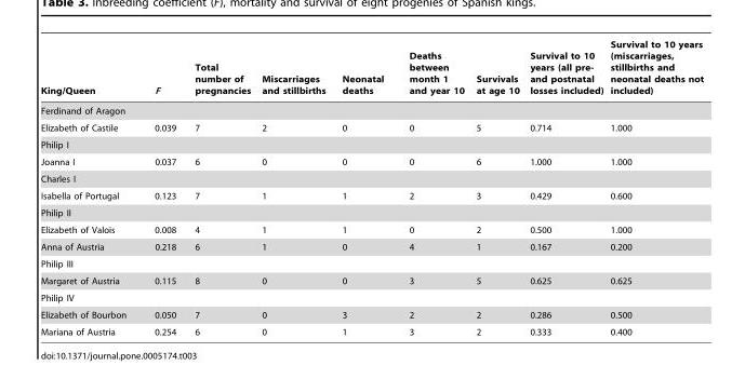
<table><thead><tr><td>King/Queen</td><td>F</td><td>Total number of pregnancies</td><td>Miscarriages and stillbirths</td><td>Neonatal deaths</td><td>Deaths between month 1 and year 10</td><td>Survivals at age 10</td><td>Survival to 10 years (all pre- and postnatal losses included)</td><td>Survival to 10 years (miscarriages, stillbirths and neonatal deaths not included)</td></tr></thead><tbody><tr><td colspan="9">Ferdinand of Aragon</td></tr><tr><td>Elizabeth of Castile</td><td>0.039</td><td>7</td><td>2</td><td>0</td><td>0</td><td>5</td><td>0.714</td><td>1.000</td></tr><tr><td colspan="9">Philip I</td></tr><tr><td>Joanna I</td><td>0.037</td><td>6</td><td>0</td><td>0</td><td>0</td><td>6</td><td>1.000</td><td>1.000</td></tr><tr><td colspan="9">Charles I</td></tr><tr><td>Isabella of Portugal</td><td>0.123</td><td>7</td><td>1</td><td>1</td><td>2</td><td>3</td><td>0.429</td><td>0.600</td></tr><tr><td colspan="9">Philip II</td></tr><tr><td>Elizabeth of Valois</td><td>0.008</td><td>4</td><td>1</td><td>1</td><td>0</td><td>2</td><td>0.500</td><td>1.000</td></tr><tr><td>Anna of Austria</td><td>0.218</td><td>6</td><td>1</td><td>0</td><td>4</td><td>1</td><td>0.167</td><td>0.200</td></tr><tr><td colspan="9">Philip III</td></tr><tr><td>Margaret of Austria</td><td>0.115</td><td>8</td><td>0</td><td>0</td><td>3</td><td>5</td><td>0.625</td><td>0.625</td></tr><tr><td colspan="9">Philip IV</td></tr><tr><td>Elizabeth of Bourbon</td><td>0.050</td><td>7</td><td>0</td><td>3</td><td>2</td><td>2</td><td>0.286</td><td>0.500</td></tr><tr><td>Mariana of Austria</td><td>0.254</td><td>6</td><td>0</td><td>1</td><td>3</td><td>2</td><td>0.333</td><td>0.400</td></tr></tbody></table>